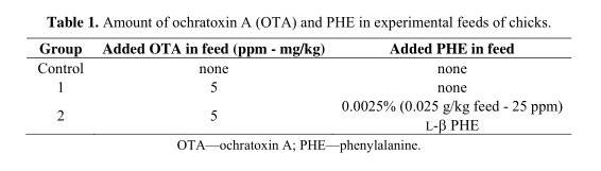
<table><thead><tr><td>Group</td><td>Added OTA in feed (ppm - mg/kg)</td><td>Added PHE in feed</td></tr></thead><tbody><tr><td>Control</td><td>none</td><td>none</td></tr><tr><td>1</td><td>5</td><td>none</td></tr><tr><td>2</td><td>5</td><td>0.0025% (0.025 g/kg feed - 25 ppm) L-β PHE</td></tr></tbody></table>